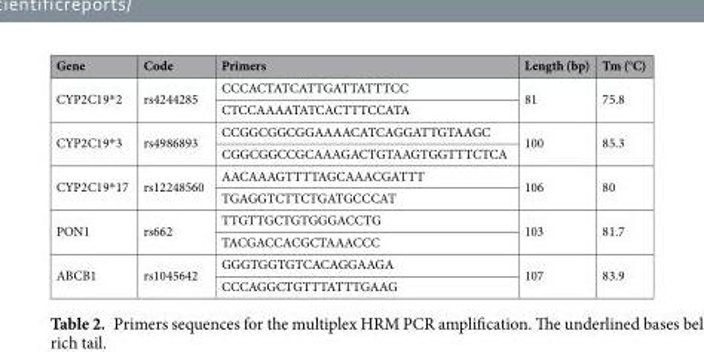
<table><thead><tr><td>Gene</td><td>Code</td><td>Primers</td><td>Length (bp)</td><td>Tm (°C)</td></tr></thead><tbody><tr><td rowspan="2">CYP2C19*2</td><td rowspan="2">rs4244285</td><td>CCCACTATCATTGATTATTTCC</td><td rowspan="2">81</td><td rowspan="2">75.8</td></tr><tr><td>CTCCAAAATATCACTTTCCATA</td></tr><tr><td rowspan="2">CYP2C19*3</td><td rowspan="2">rs4986893</td><td>CCGGCGGCGGAAAACATCAGGATTGTAAGC</td><td rowspan="2">100</td><td rowspan="2">85.3</td></tr><tr><td>CGGCGGCCGCAAAGACTGTAAGTGGTTTCTCA</td></tr><tr><td rowspan="2">CYP2C19*17</td><td rowspan="2">rs12248560</td><td>AACAAAGTTTTAGCAAACGATTT</td><td rowspan="2">106</td><td rowspan="2">80</td></tr><tr><td>TGAGGTCTTCTGATGCCCAT</td></tr><tr><td rowspan="2">PON1</td><td rowspan="2">rs662</td><td>TTGTTGCTGTGGGACCTG</td><td rowspan="2">103</td><td rowspan="2">81.7</td></tr><tr><td>TACGACCACGCTAAACCC</td></tr><tr><td rowspan="2">ABCB1</td><td rowspan="2">rs1045642</td><td>GGGTGGTGTCACAGGAAGA</td><td rowspan="2">107</td><td rowspan="2">83.9</td></tr><tr><td>CCCAGGCTGTTTATTTGAAG</td></tr></tbody></table>